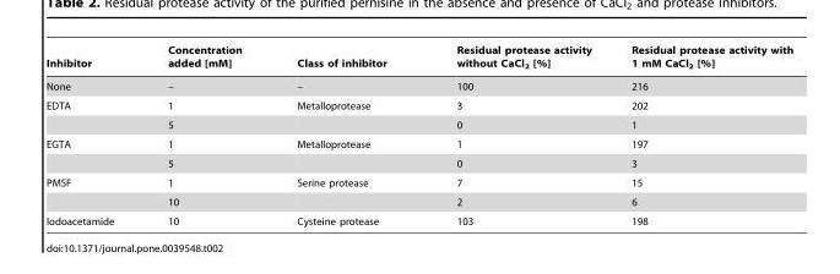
<table><thead><tr><td>Inhibitor</td><td>Concentration added [mM]</td><td>Class of inhibitor</td><td>Residual protease activity without CaCl<sub>2</sub> [%]</td><td>Residual protease activity with 1 mM CaCl<sub>2</sub> [%]</td></tr></thead><tbody><tr><td>None</td><td>–</td><td>–</td><td>100</td><td>216</td></tr><tr><td rowspan="2">EDTA</td><td>1</td><td>Metalloprotease</td><td>3</td><td>202</td></tr><tr><td>5</td><td></td><td>0</td><td>1</td></tr><tr><td rowspan="2">EGTA</td><td>1</td><td>Metalloprotease</td><td>1</td><td>197</td></tr><tr><td>5</td><td></td><td>0</td><td>3</td></tr><tr><td rowspan="2">PMSF</td><td>1</td><td>Serine protease</td><td>7</td><td>15</td></tr><tr><td>10</td><td></td><td>2</td><td>6</td></tr><tr><td>Iodoacetamide</td><td>10</td><td>Cysteine protease</td><td>103</td><td>198</td></tr></tbody></table>